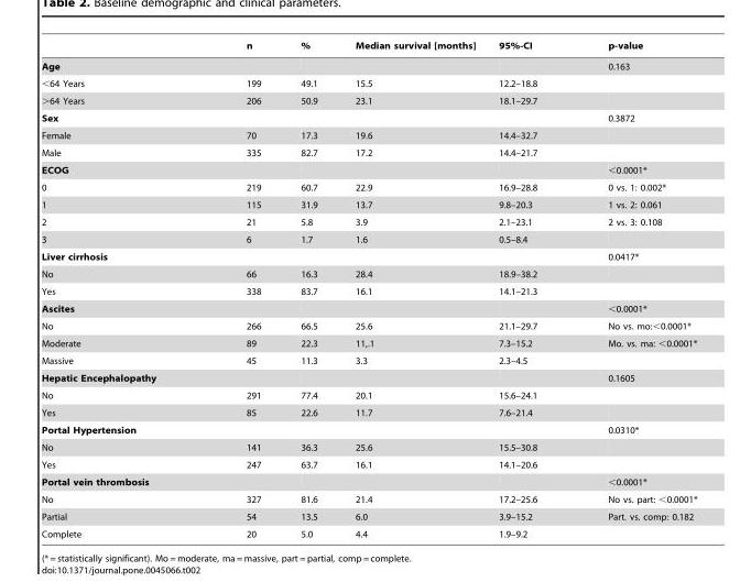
<table><thead><tr><td></td><td>n</td><td>%</td><td>Median survival [months]</td><td>95%-CI</td><td>p-value</td></tr></thead><tbody><tr><td>Age</td><td></td><td></td><td></td><td></td><td>0.163</td></tr><tr><td>&lt;64 Years</td><td>199</td><td>49.1</td><td>15.5</td><td>12.2–18.8</td><td></td></tr><tr><td>&gt;64 Years</td><td>206</td><td>50.9</td><td>23.1</td><td>18.1–29.7</td><td></td></tr><tr><td>Sex</td><td></td><td></td><td></td><td></td><td>0.3872</td></tr><tr><td>Female</td><td>70</td><td>17.3</td><td>19.6</td><td>14.4–32.7</td><td></td></tr><tr><td>Male</td><td>335</td><td>82.7</td><td>17.2</td><td>14.4–21.7</td><td></td></tr><tr><td>ECOG</td><td></td><td></td><td></td><td></td><td>&lt;0.0001*</td></tr><tr><td>0</td><td>219</td><td>60.7</td><td>22.9</td><td>16.9–28.8</td><td>0 vs. 1: 0.002*</td></tr><tr><td>1</td><td>115</td><td>31.9</td><td>13.7</td><td>9.8–20.3</td><td>1 vs. 2: 0.061</td></tr><tr><td>2</td><td>21</td><td>5.8</td><td>3.9</td><td>2.1–23.1</td><td>2 vs. 3: 0.108</td></tr><tr><td>3</td><td>6</td><td>1.7</td><td>1.6</td><td>0.5–8.4</td><td></td></tr><tr><td>Liver cirrhosis</td><td></td><td></td><td></td><td></td><td>0.0417*</td></tr><tr><td>No</td><td>66</td><td>16.3</td><td>28.4</td><td>18.9–38.2</td><td></td></tr><tr><td>Yes</td><td>338</td><td>83.7</td><td>16.1</td><td>14.1–21.3</td><td></td></tr><tr><td>Ascites</td><td></td><td></td><td></td><td></td><td>&lt;0.0001*</td></tr><tr><td>No</td><td>266</td><td>66.5</td><td>25.6</td><td>21.1–29.7</td><td>No vs. mo:&lt;0.0001*</td></tr><tr><td>Moderate</td><td>89</td><td>22.3</td><td>11,.1</td><td>7.3–15.2</td><td>Mo. vs. ma: &lt;0.0001*</td></tr><tr><td>Massive</td><td>45</td><td>11.3</td><td>3.3</td><td>2.3–4.5</td><td></td></tr><tr><td>Hepatic Encephalopathy</td><td></td><td></td><td></td><td></td><td>0.1605</td></tr><tr><td>No</td><td>291</td><td>77.4</td><td>20.1</td><td>15.6–24.1</td><td></td></tr><tr><td>Yes</td><td>85</td><td>22.6</td><td>11.7</td><td>7.6–21.4</td><td></td></tr><tr><td>Portal Hypertension</td><td></td><td></td><td></td><td></td><td>0.0310*</td></tr><tr><td>No</td><td>141</td><td>36.3</td><td>25.6</td><td>15.5–30.8</td><td></td></tr><tr><td>Yes</td><td>247</td><td>63.7</td><td>16.1</td><td>14.1–20.6</td><td></td></tr><tr><td>Portal vein thrombosis</td><td></td><td></td><td></td><td></td><td>&lt;0.0001*</td></tr><tr><td>No</td><td>327</td><td>81.6</td><td>21.4</td><td>17.2–25.6</td><td>No vs. part: &lt;0.0001*</td></tr><tr><td>Partial</td><td>54</td><td>13.5</td><td>6.0</td><td>3.9–15.2</td><td>Part. vs. comp: 0.182</td></tr><tr><td>Complete</td><td>20</td><td>5.0</td><td>4.4</td><td>1.9–9.2</td><td></td></tr></tbody></table>